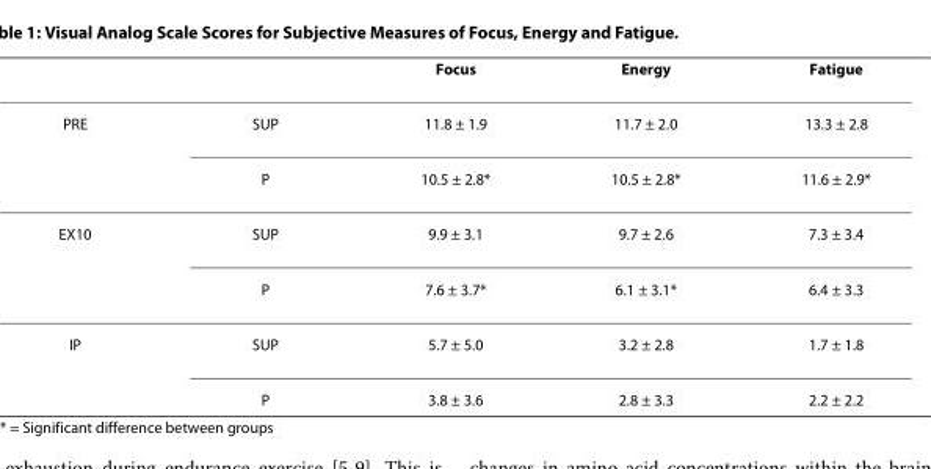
<table><thead><tr><td></td><td></td><td>Focus</td><td>Energy</td><td>Fatigue</td></tr></thead><tbody><tr><td rowspan="2">PRE</td><td>SUP</td><td>11.8 ± 1.9</td><td>11.7 ± 2.0</td><td>13.3 ± 2.8</td></tr><tr><td>P</td><td>10.5 ± 2.8*</td><td>10.5 ± 2.8*</td><td>11.6 ± 2.9*</td></tr><tr><td rowspan="2">EX10</td><td>SUP</td><td>9.9 ± 3.1</td><td>9.7 ± 2.6</td><td>7.3 ± 3.4</td></tr><tr><td>P</td><td>7.6 ± 3.7*</td><td>6.1 ± 3.1*</td><td>6.4 ± 3.3</td></tr><tr><td rowspan="2">IP</td><td>SUP</td><td>5.7 ± 5.0</td><td>3.2 ± 2.8</td><td>1.7 ± 1.8</td></tr><tr><td>P</td><td>3.8 ± 3.6</td><td>2.8 ± 3.3</td><td>2.2 ± 2.2</td></tr></tbody></table>